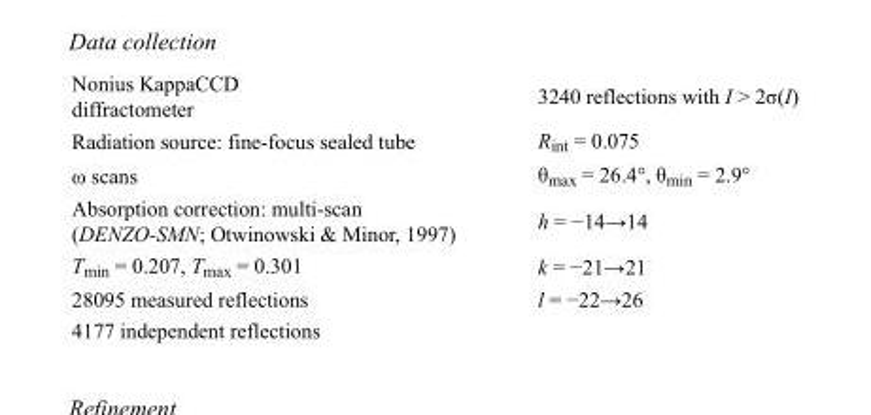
<table><tbody><tr><td>Nonius KappaCCD diffractometer</td><td>3240 reflections with I &gt; 2σ(I)</td></tr><tr><td>Radiation source: fine-focus sealed tube</td><td>R<sub>int</sub> = 0.075</td></tr><tr><td>ω scans</td><td>θ<sub>max</sub> = 26.4°, θ<sub>min</sub> = 2.9°</td></tr><tr><td>Absorption correction: multi-scan (DENZO-SMN; Otwinowski &amp; Minor, 1997)</td><td>h = −14→14</td></tr><tr><td>T<sub>min</sub> = 0.207, T<sub>max</sub> = 0.301</td><td>k = −21→21</td></tr><tr><td>28095 measured reflections</td><td>l = −22→26</td></tr><tr><td>4177 independent reflections</td><td></td></tr></tbody></table>